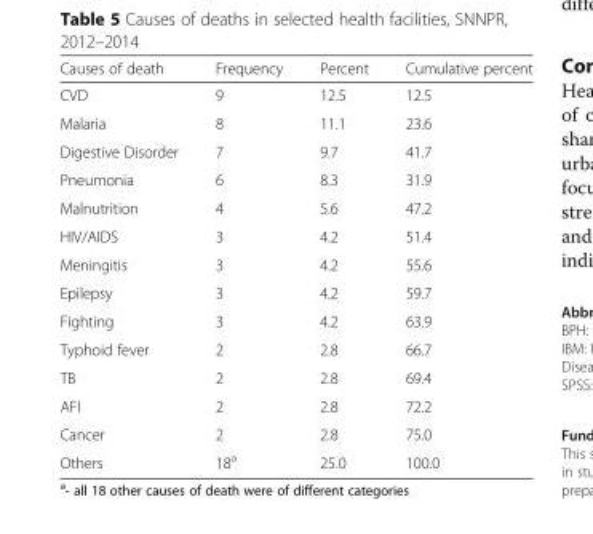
<table><thead><tr><td>Causes of death</td><td>Frequency</td><td>Percent</td><td>Cumulative percent</td></tr></thead><tbody><tr><td>CVD</td><td>9</td><td>12.5</td><td>12.5</td></tr><tr><td>Malaria</td><td>8</td><td>11.1</td><td>23.6</td></tr><tr><td>Digestive Disorder</td><td>7</td><td>9.7</td><td>41.7</td></tr><tr><td>Pneumonia</td><td>6</td><td>8.3</td><td>31.9</td></tr><tr><td>Malnutrition</td><td>4</td><td>5.6</td><td>47.2</td></tr><tr><td>HIV/AIDS</td><td>3</td><td>4.2</td><td>51.4</td></tr><tr><td>Meningitis</td><td>3</td><td>4.2</td><td>55.6</td></tr><tr><td>Epilepsy</td><td>3</td><td>4.2</td><td>59.7</td></tr><tr><td>Fighting</td><td>3</td><td>4.2</td><td>63.9</td></tr><tr><td>Typhoid fever</td><td>2</td><td>2.8</td><td>66.7</td></tr><tr><td>TB</td><td>2</td><td>2.8</td><td>69.4</td></tr><tr><td>AFI</td><td>2</td><td>2.8</td><td>72.2</td></tr><tr><td>Cancer</td><td>2</td><td>2.8</td><td>75.0</td></tr><tr><td>Others</td><td>18<sup>a</sup></td><td>25.0</td><td>100.0</td></tr></tbody></table>